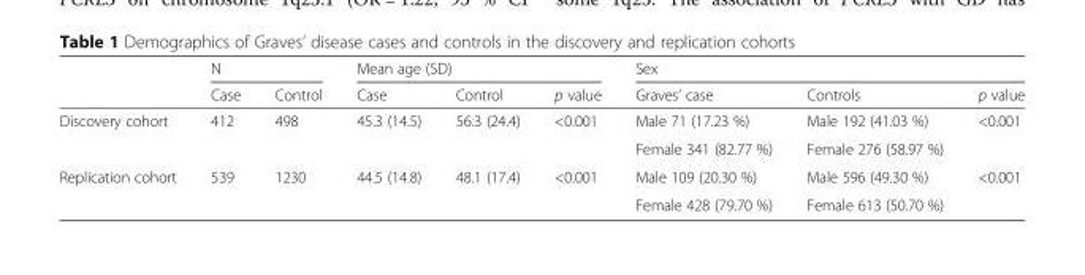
<table><thead><tr><td rowspan="2"></td><td colspan="2">N</td><td colspan="3">Mean age (SD)</td><td colspan="3">Sex</td></tr><tr><td>Case</td><td>Control</td><td>Case</td><td>Control</td><td>p value</td><td>Graves’ case</td><td>Controls</td><td>p value</td></tr></thead><tbody><tr><td rowspan="2">Discovery cohort</td><td rowspan="2">412</td><td rowspan="2">498</td><td rowspan="2">45.3 (14.5)</td><td rowspan="2">56.3 (24.4)</td><td rowspan="2">&lt;0.001</td><td>Male 71 (17.23 %)</td><td>Male 192 (41.03 %)</td><td rowspan="2">&lt;0.001</td></tr><tr><td>Female 341 (82.77 %)</td><td>Female 276 (58.97 %)</td></tr><tr><td rowspan="2">Replication cohort</td><td rowspan="2">539</td><td rowspan="2">1230</td><td rowspan="2">44.5 (14.8)</td><td rowspan="2">48.1 (17.4)</td><td rowspan="2">&lt;0.001</td><td>Male 109 (20.30 %)</td><td>Male 596 (49.30 %)</td><td rowspan="2">&lt;0.001</td></tr><tr><td>Female 428 (79.70 %)</td><td>Female 613 (50.70 %)</td></tr></tbody></table>